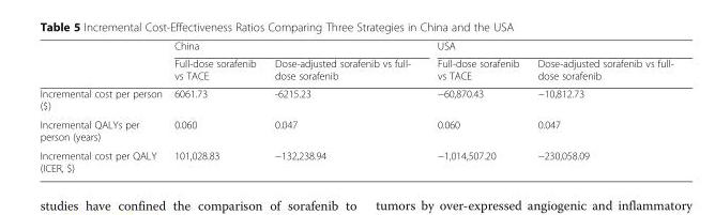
<table><thead><tr><td rowspan="2"></td><td colspan="2">China</td><td colspan="2">USA</td></tr><tr><td>Full-dose sorafenib vs TACE</td><td>Dose-adjusted sorafenib vs full- dose sorafenib</td><td>Full-dose sorafenib vs TACE</td><td>Dose-adjusted sorafenib vs full- dose sorafenib</td></tr></thead><tbody><tr><td>Incremental cost per person ($)</td><td>6061.73</td><td>-6215.23</td><td>−60,870.43</td><td>−10,812.73</td></tr><tr><td>Incremental QALYs per person (years)</td><td>0.060</td><td>0.047</td><td>0.060</td><td>0.047</td></tr><tr><td>Incremental cost per QALY (ICER, $)</td><td>101,028.83</td><td>−132,238.94</td><td>−1,014,507.20</td><td>−230,058.09</td></tr></tbody></table>